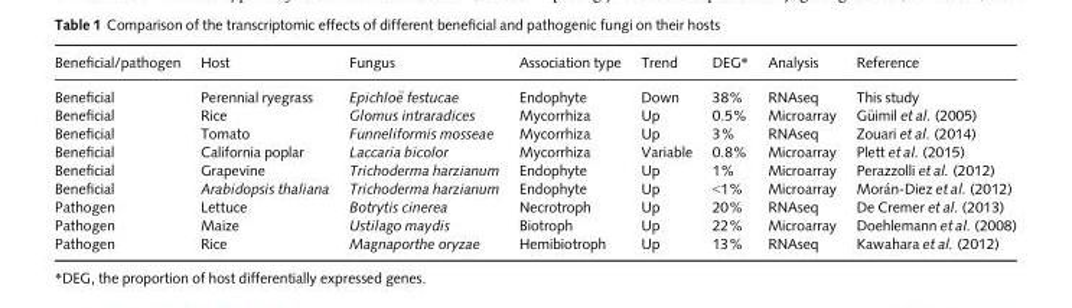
<table><thead><tr><td>Beneficial/pathogen</td><td>Host</td><td>Fungus</td><td>Association type</td><td>Trend</td><td>DEG*</td><td>Analysis</td><td>Reference</td></tr></thead><tbody><tr><td>Beneficial</td><td>Perennial ryegrass</td><td>Epichlo€e festucae</td><td>Endophyte</td><td>Down</td><td>38%</td><td>RNAseq</td><td>This study</td></tr><tr><td>Beneficial</td><td>Rice</td><td>Glomus intraradices</td><td>Mycorrhiza</td><td>Up</td><td>0.5%</td><td>Microarray</td><td>G€uimil et al. (2005)</td></tr><tr><td>Beneficial</td><td>Tomato</td><td>Funneliformis mosseae</td><td>Mycorrhiza</td><td>Up</td><td>3%</td><td>RNAseq</td><td>Zouari et al. (2014)</td></tr><tr><td>Beneficial</td><td>California poplar</td><td>Laccaria bicolor</td><td>Mycorrhiza</td><td>Variable</td><td>0.8%</td><td>Microarray</td><td>Plett et al. (2015)</td></tr><tr><td>Beneficial</td><td>Grapevine</td><td>Trichoderma harzianum</td><td>Endophyte</td><td>Up</td><td>1%</td><td>Microarray</td><td>Perazzolli et al. (2012)</td></tr><tr><td>Beneficial</td><td>Arabidopsis thaliana</td><td>Trichoderma harzianum</td><td>Endophyte</td><td>Up</td><td>&lt;1%</td><td>Microarray</td><td>Mor�an-Diez et al. (2012)</td></tr><tr><td>Pathogen</td><td>Lettuce</td><td>Botrytis cinerea</td><td>Necrotroph</td><td>Up</td><td>20%</td><td>RNAseq</td><td>De Cremer et al. (2013)</td></tr><tr><td>Pathogen</td><td>Maize</td><td>Ustilago maydis</td><td>Biotroph</td><td>Up</td><td>22%</td><td>Microarray</td><td>Doehlemann et al. (2008)</td></tr><tr><td>Pathogen</td><td>Rice</td><td>Magnaporthe oryzae</td><td>Hemibiotroph</td><td>Up</td><td>13%</td><td>RNAseq</td><td>Kawahara et al. (2012)</td></tr></tbody></table>